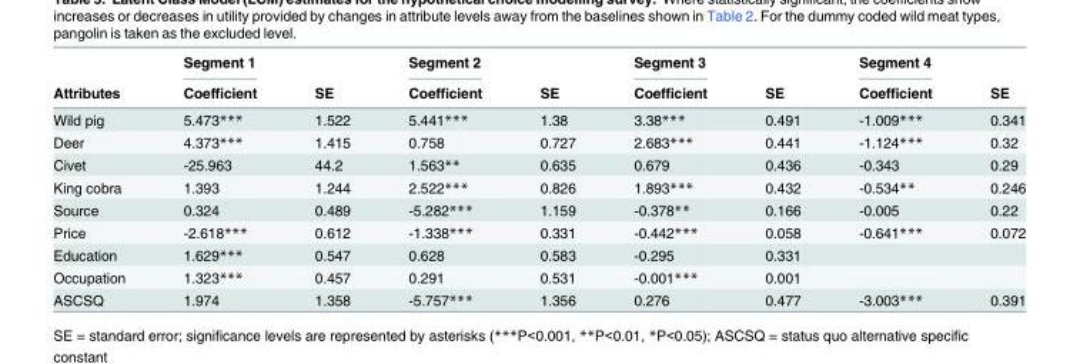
<table><thead><tr><td rowspan="2">Attributes</td><td rowspan="2">Segment 1 Coefficient</td><td rowspan="2">SE</td><td rowspan="2">Segment 2 Coefficient</td><td rowspan="2">SE</td><td rowspan="2">Segment 3 Coefficient</td><td rowspan="2">SE</td><td rowspan="2">Segment 4 Coefficient</td><td rowspan="2">SE</td></tr><tr></tr></thead><tbody><tr><td>Wild pig</td><td>5.473***</td><td>1.522</td><td>5.441***</td><td>1.38</td><td>3.38***</td><td>0.491</td><td>-1.009***</td><td>0.341</td></tr><tr><td>Deer</td><td>4.373***</td><td>1.415</td><td>0.758</td><td>0.727</td><td>2.683***</td><td>0.441</td><td>-1.124***</td><td>0.32</td></tr><tr><td>Civet</td><td>-25.963</td><td>44.2</td><td>1.563**</td><td>0.635</td><td>0.679</td><td>0.436</td><td>-0.343</td><td>0.29</td></tr><tr><td>King cobra</td><td>1.393</td><td>1.244</td><td>2.522***</td><td>0.826</td><td>1.893***</td><td>0.432</td><td>-0.534**</td><td>0.246</td></tr><tr><td>Source</td><td>0.324</td><td>0.489</td><td>-5.282***</td><td>1.159</td><td>-0.378**</td><td>0.166</td><td>-0.005</td><td>0.22</td></tr><tr><td>Price</td><td>-2.618***</td><td>0.612</td><td>-1.338***</td><td>0.331</td><td>-0.442***</td><td>0.058</td><td>-0.641***</td><td>0.072</td></tr><tr><td>Education</td><td>1.629***</td><td>0.547</td><td>0.628</td><td>0.583</td><td>-0.295</td><td>0.331</td><td></td><td></td></tr><tr><td>Occupation</td><td>1.323***</td><td>0.457</td><td>0.291</td><td>0.531</td><td>-0.001***</td><td>0.001</td><td></td><td></td></tr><tr><td>ASCSQ</td><td>1.974</td><td>1.358</td><td>-5.757***</td><td>1.356</td><td>0.276</td><td>0.477</td><td>-3.003***</td><td>0.391</td></tr></tbody></table>